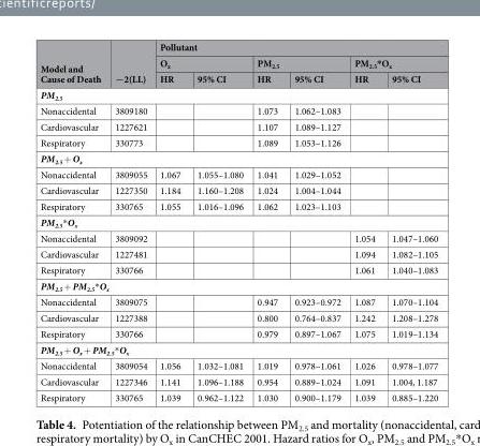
<table><thead><tr><td rowspan="3">Model and Cause of Death</td><td rowspan="3">−2(LL)</td><td colspan="6">Pollutant</td></tr><tr><td colspan="2">O<sub>x</sub></td><td colspan="2">PM<sub>2.5</sub></td><td colspan="2">PM<sub>2.5</sub>*O<sub>x</sub></td></tr><tr><td>HR</td><td>95% CI</td><td>HR</td><td>95% CI</td><td>HR</td><td>95% CI</td></tr></thead><tbody><tr><td colspan="8">PM<sub>2.5</sub></td></tr><tr><td>Nonaccidental</td><td>3809180</td><td></td><td></td><td>1.073</td><td>1.062–1.083</td><td></td><td></td></tr><tr><td>Cardiovascular</td><td>1227621</td><td></td><td></td><td>1.107</td><td>1.089–1.127</td><td></td><td></td></tr><tr><td>Respiratory</td><td>330773</td><td></td><td></td><td>1.089</td><td>1.053–1.126</td><td></td><td></td></tr><tr><td colspan="8">PM<sub>2.5</sub> + O<sub>x</sub></td></tr><tr><td>Nonaccidental</td><td>3809055</td><td>1.067</td><td>1.055–1.080</td><td>1.041</td><td>1.029–1.052</td><td></td><td></td></tr><tr><td>Cardiovascular</td><td>1227350</td><td>1.184</td><td>1.160–1.208</td><td>1.024</td><td>1.004–1.044</td><td></td><td></td></tr><tr><td>Respiratory</td><td>330765</td><td>1.055</td><td>1.016–1.096</td><td>1.062</td><td>1.023–1.103</td><td></td><td></td></tr><tr><td colspan="8">PM<sub>2.5</sub>*O<sub>x</sub></td></tr><tr><td>Nonaccidental</td><td>3809092</td><td></td><td></td><td></td><td></td><td>1.054</td><td>1.047–1.060</td></tr><tr><td>Cardiovascular</td><td>1227481</td><td></td><td></td><td></td><td></td><td>1.094</td><td>1.082–1.105</td></tr><tr><td>Respiratory</td><td>330766</td><td></td><td></td><td></td><td></td><td>1.061</td><td>1.040–1.083</td></tr><tr><td colspan="8">PM<sub>2.5</sub> + PM<sub>2.5</sub>*O<sub>x</sub></td></tr><tr><td>Nonaccidental</td><td>3809075</td><td></td><td></td><td>0.947</td><td>0.923–0.972</td><td>1.087</td><td>1.070–1.104</td></tr><tr><td>Cardiovascular</td><td>1227388</td><td></td><td></td><td>0.800</td><td>0.764–0.837</td><td>1.242</td><td>1.208–1.278</td></tr><tr><td>Respiratory</td><td>330766</td><td></td><td></td><td>0.979</td><td>0.897–1.067</td><td>1.075</td><td>1.019–1.134</td></tr><tr><td colspan="8">PM<sub>2.5</sub> + O<sub>x</sub> + PM<sub>2.5</sub>*O<sub>x</sub></td></tr><tr><td>Nonaccidental</td><td>3809054</td><td>1.056</td><td>1.032–1.081</td><td>1.019</td><td>0.978–1.061</td><td>1.026</td><td>0.978–1.077</td></tr><tr><td>Cardiovascular</td><td>1227346</td><td>1.141</td><td>1.096–1.188</td><td>0.954</td><td>0.889–1.024</td><td>1.091</td><td>1.004, 1.187</td></tr><tr><td>Respiratory</td><td>330765</td><td>1.039</td><td>0.962–1.122</td><td>1.030</td><td>0.900–1.179</td><td>1.039</td><td>0.885–1.220</td></tr></tbody></table>